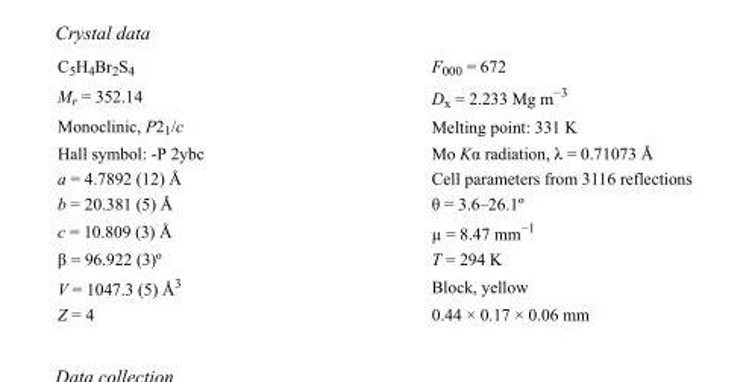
<table><tbody><tr><td>C<sub>5</sub>H<sub>4</sub>Br<sub>2</sub>S<sub>4</sub></td><td>F000 = 672</td></tr><tr><td>M<sub>r</sub> = 352.14</td><td>D<sub>x</sub> = 2.233 Mg m<sup>−3</sup></td></tr><tr><td>Monoclinic, P2<sub>1</sub>/c</td><td>Melting point: 331 K</td></tr><tr><td>Hall symbol: -P 2ybc</td><td>Mo Kα radiation, λ = 0.71073 Å</td></tr><tr><td>a = 4.7892 (12) Å</td><td>Cell parameters from 3116 reflections</td></tr><tr><td>b = 20.381 (5) Å</td><td>θ = 3.6–26.1º</td></tr><tr><td>c = 10.809 (3) Å</td><td>µ = 8.47 mm<sup>−1</sup></td></tr><tr><td>β = 96.922 (3)º</td><td>T = 294 K</td></tr><tr><td>V = 1047.3 (5) Å<sup>3</sup></td><td>Block, yellow</td></tr><tr><td>Z = 4</td><td>0.44 × 0.17 × 0.06 mm</td></tr></tbody></table>